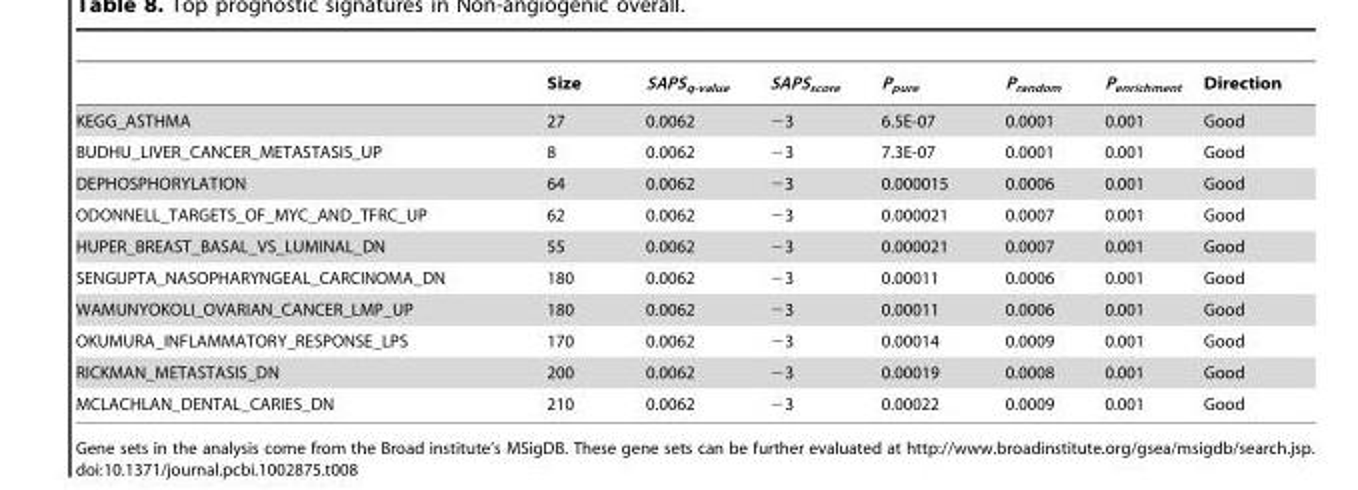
<table><thead><tr><td></td><td>Size</td><td>SAPS<sub>q-value</sub></td><td>SAPS<sub>score</sub></td><td>P<sub>pure</sub></td><td>P<sub>random</sub></td><td>P<sub>enrichment</sub></td><td>Direction</td></tr></thead><tbody><tr><td>KEGG_ASTHMA</td><td>27</td><td>0.0062</td><td>−3</td><td>6.5E-07</td><td>0.0001</td><td>0.001</td><td>Good</td></tr><tr><td>BUDHU_LIVER_CANCER_METASTASIS_UP</td><td>8</td><td>0.0062</td><td>−3</td><td>7.3E-07</td><td>0.0001</td><td>0.001</td><td>Good</td></tr><tr><td>DEPHOSPHORYLATION</td><td>64</td><td>0.0062</td><td>−3</td><td>0.000015</td><td>0.0006</td><td>0.001</td><td>Good</td></tr><tr><td>ODONNELL_TARGETS_OF_MYC_AND_TFRC_UP</td><td>62</td><td>0.0062</td><td>−3</td><td>0.000021</td><td>0.0007</td><td>0.001</td><td>Good</td></tr><tr><td>HUPER_BREAST_BASAL_VS_LUMINAL_DN</td><td>55</td><td>0.0062</td><td>−3</td><td>0.000021</td><td>0.0007</td><td>0.001</td><td>Good</td></tr><tr><td>SENGUPTA_NASOPHARYNGEAL_CARCINOMA_DN</td><td>180</td><td>0.0062</td><td>−3</td><td>0.00011</td><td>0.0006</td><td>0.001</td><td>Good</td></tr><tr><td>WAMUNYOKOLI_OVARIAN_CANCER_LMP_UP</td><td>180</td><td>0.0062</td><td>−3</td><td>0.00011</td><td>0.0006</td><td>0.001</td><td>Good</td></tr><tr><td>OKUMURA_INFLAMMATORY_RESPONSE_LPS</td><td>170</td><td>0.0062</td><td>−3</td><td>0.00014</td><td>0.0009</td><td>0.001</td><td>Good</td></tr><tr><td>RICKMAN_METASTASIS_DN</td><td>200</td><td>0.0062</td><td>−3</td><td>0.00019</td><td>0.0008</td><td>0.001</td><td>Good</td></tr><tr><td>MCLACHLAN_DENTAL_CARIES_DN</td><td>210</td><td>0.0062</td><td>−3</td><td>0.00022</td><td>0.0009</td><td>0.001</td><td>Good</td></tr></tbody></table>